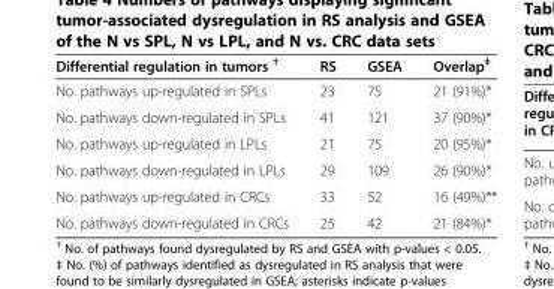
<table><thead><tr><td>Differential regulation in tumors <sup>†</sup></td><td>RS</td><td>GSEA</td><td>Overlap<sup>‡</sup></td></tr></thead><tbody><tr><td>No. pathways up-regulated in SPLs</td><td>23</td><td>75</td><td>21 (91%)*</td></tr><tr><td>No. pathways down-regulated in SPLs</td><td>41</td><td>121</td><td>37 (90%)*</td></tr><tr><td>No. pathways up-regulated in LPLs</td><td>21</td><td>75</td><td>20 (95%)*</td></tr><tr><td>No. pathways down-regulated in LPLs</td><td>29</td><td>109</td><td>26 (90%)*</td></tr><tr><td>No. pathways up-regulated in CRCs</td><td>33</td><td>52</td><td>16 (49%)**</td></tr><tr><td>No. pathways down-regulated in CRCs</td><td>25</td><td>42</td><td>21 (84%)*</td></tr></tbody></table>